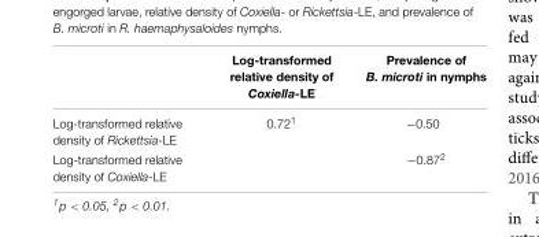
<table><thead><tr><td></td><td>Log-transformed relative density of Coxiella-LE</td><td>Prevalence of B. microti in nymphs</td></tr></thead><tbody><tr><td>Log-transformed relative density of Rickettsia-LE</td><td>0.72<sup>1</sup></td><td>−0.50</td></tr><tr><td>Log-transformed relative density of Coxiella-LE</td><td></td><td>−0.87<sup>2</sup></td></tr></tbody></table>